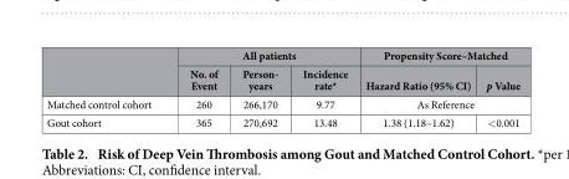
<table><thead><tr><td rowspan="2"></td><td colspan="3">All patients</td><td colspan="2">Propensity Score–Matched</td></tr><tr><td>No. of Event</td><td>Person- years</td><td>Incidence rate*</td><td>Hazard Ratio (95% CI)</td><td>p Value</td></tr></thead><tbody><tr><td>Matched control cohort</td><td>260</td><td>266,170</td><td>9.77</td><td colspan="2">As Reference</td></tr><tr><td>Gout cohort</td><td>365</td><td>270,692</td><td>13.48</td><td>1.38 (1.18–1.62)</td><td>&lt; 0.001</td></tr></tbody></table>